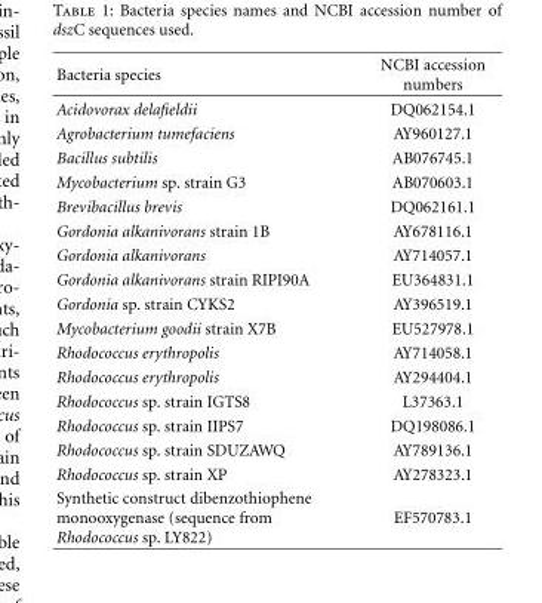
<table><thead><tr><td>Bacteria species</td><td>NCBI accession numbers</td></tr></thead><tbody><tr><td>Acidovorax delafieldii</td><td>DQ062154.1</td></tr><tr><td>Agrobacterium tumefaciens</td><td>AY960127.1</td></tr><tr><td>Bacillus subtilis</td><td>AB076745.1</td></tr><tr><td>Mycobacterium sp. strain G3</td><td>AB070603.1</td></tr><tr><td>Brevibacillus brevis</td><td>DQ062161.1</td></tr><tr><td>Gordonia alkanivorans strain 1B</td><td>AY678116.1</td></tr><tr><td>Gordonia alkanivorans</td><td>AY714057.1</td></tr><tr><td>Gordonia alkanivorans strain RIPI90A</td><td>EU364831.1</td></tr><tr><td>Gordonia sp. strain CYKS2</td><td>AY396519.1</td></tr><tr><td>Mycobacterium goodii strain X7B</td><td>EU527978.1</td></tr><tr><td>Rhodococcus erythropolis</td><td>AY714058.1</td></tr><tr><td>Rhodococcus erythropolis</td><td>AY294404.1</td></tr><tr><td>Rhodococcus sp. strain IGTS8</td><td>L37363.1</td></tr><tr><td>Rhodococcus sp. strain IIPS7</td><td>DQ198086.1</td></tr><tr><td>Rhodococcus sp. strain SDUZAWQ</td><td>AY789136.1</td></tr><tr><td>Rhodococcus sp. strain XP</td><td>AY278323.1</td></tr><tr><td>Synthetic construct dibenzothiophene monooxygenase (sequence from Rhodococcus sp. LY822)</td><td>EF570783.1</td></tr></tbody></table>